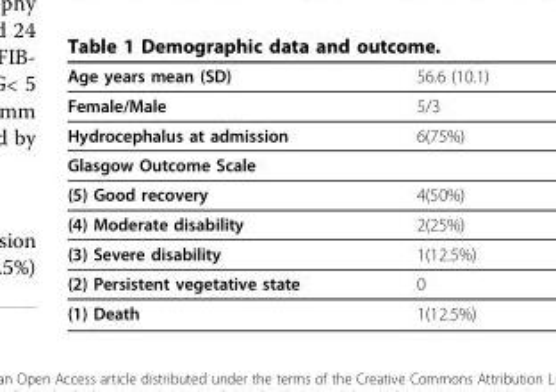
<table><tbody><tr><td>Age years mean (SD)</td><td>56.6 (10.1)</td></tr><tr><td>Female/Male</td><td>5/3</td></tr><tr><td>Hydrocephalus at admission</td><td>6(75%)</td></tr><tr><td colspan="2">Glasgow Outcome Scale</td></tr><tr><td>(5) Good recovery</td><td>4(50%)</td></tr><tr><td>(4) Moderate disability</td><td>2(25%)</td></tr><tr><td>(3) Severe disability</td><td>1(12.5%)</td></tr><tr><td>(2) Persistent vegetative state</td><td>0</td></tr><tr><td>(1) Death</td><td>1(12.5%)</td></tr></tbody></table>